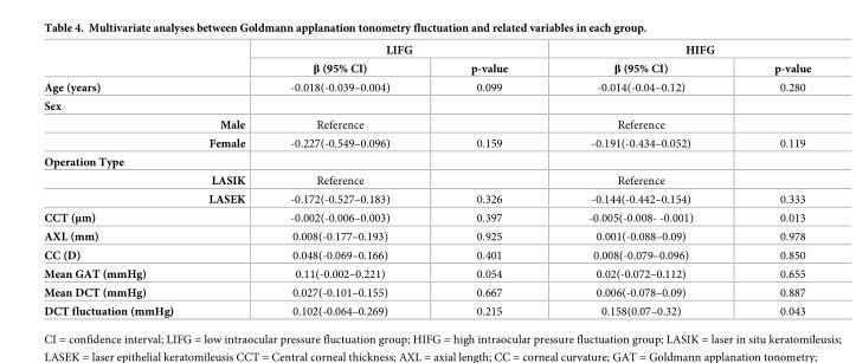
<table><thead><tr><td rowspan="2"></td><td colspan="2">LIFG</td><td colspan="2">HIFG</td></tr><tr><td>β (95% CI)</td><td>p-value</td><td>β (95% CI)</td><td>p-value</td></tr></thead><tbody><tr><td>Age (years)</td><td>-0.018(-0.039–0.004)</td><td>0.099</td><td>-0.014(-0.04–0.12)</td><td>0.280</td></tr><tr><td colspan="5">Sex</td></tr><tr><td>Male</td><td>Reference</td><td></td><td>Reference</td><td></td></tr><tr><td>Female</td><td>-0.227(-0.549–0.096)</td><td>0.159</td><td>-0.191(-0.434–0.052)</td><td>0.119</td></tr><tr><td colspan="5">Operation Type</td></tr><tr><td>LASIK</td><td>Reference</td><td></td><td>Reference</td><td></td></tr><tr><td>LASEK</td><td>-0.172(-0.527–0.183)</td><td>0.326</td><td>-0.144(-0.442–0.154)</td><td>0.333</td></tr><tr><td>CCT (μm)</td><td>-0.002(-0.006–0.003)</td><td>0.397</td><td>-0.005(-0.008- -0.001)</td><td>0.013</td></tr><tr><td>AXL (mm)</td><td>0.008(-0.177–0.193)</td><td>0.925</td><td>0.001(-0.088–0.09)</td><td>0.978</td></tr><tr><td>CC (D)</td><td>0.048(-0.069–0.166)</td><td>0.401</td><td>0.008(-0.079–0.096)</td><td>0.850</td></tr><tr><td>Mean GAT (mmHg)</td><td>0.11(-0.002–0.221)</td><td>0.054</td><td>0.02(-0.072–0.112)</td><td>0.655</td></tr><tr><td>Mean DCT (mmHg)</td><td>0.027(-0.101–0.155)</td><td>0.667</td><td>0.006(-0.078–0.09)</td><td>0.887</td></tr><tr><td>DCT fluctuation (mmHg)</td><td>0.102(-0.064–0.269)</td><td>0.215</td><td>0.158(0.07–0.32)</td><td>0.043</td></tr></tbody></table>